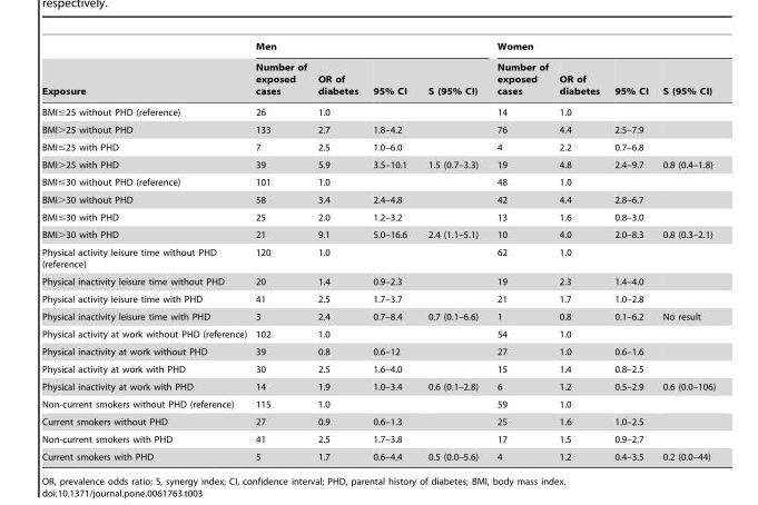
<table><thead><tr><td rowspan="2">Exposure</td><td colspan="4">Men</td><td colspan="4">Women</td></tr><tr><td>Number of exposed cases</td><td>OR of diabetes</td><td>95% CI</td><td>S (95% CI)</td><td>Number of exposed cases</td><td>OR of diabetes</td><td>95% CI</td><td>S (95% CI)</td></tr></thead><tbody><tr><td>BMI≤25 without PHD (reference)</td><td>26</td><td>1.0</td><td></td><td></td><td>14</td><td>1.0</td><td></td><td></td></tr><tr><td>BMI&gt;25 without PHD</td><td>133</td><td>2.7</td><td>1.8–4.2</td><td></td><td>76</td><td>4.4</td><td>2.5–7.9</td><td></td></tr><tr><td>BMI≤25 with PHD</td><td>7</td><td>2.5</td><td>1.0–6.0</td><td></td><td>4</td><td>2.2</td><td>0.7–6.8</td><td></td></tr><tr><td>BMI&gt;25 with PHD</td><td>39</td><td>5.9</td><td>3.5–10.1</td><td>1.5 (0.7–3.3)</td><td>19</td><td>4.8</td><td>2.4–9.7</td><td>0.8 (0.4–1.8)</td></tr><tr><td>BMI≤30 without PHD (reference)</td><td>101</td><td>1.0</td><td></td><td></td><td>48</td><td>1.0</td><td></td><td></td></tr><tr><td>BMI&gt;30 without PHD</td><td>58</td><td>3.4</td><td>2.4–4.8</td><td></td><td>42</td><td>4.4</td><td>2.8–6.7</td><td></td></tr><tr><td>BMI≤30 with PHD</td><td>25</td><td>2.0</td><td>1.2–3.2</td><td></td><td>13</td><td>1.6</td><td>0.8–3.0</td><td></td></tr><tr><td>BMI&gt;30 with PHD</td><td>21</td><td>9.1</td><td>5.0–16.6</td><td>2.4 (1.1–5.1)</td><td>10</td><td>4.0</td><td>2.0–8.3</td><td>0.8 (0.3–2.1)</td></tr><tr><td>Physical activity leisure time without PHD (reference)</td><td>120</td><td>1.0</td><td></td><td></td><td>62</td><td>1.0</td><td></td><td></td></tr><tr><td>Physical inactivity leisure time without PHD</td><td>20</td><td>1.4</td><td>0.9–2.3</td><td></td><td>19</td><td>2.3</td><td>1.4–4.0</td><td></td></tr><tr><td>Physical activity leisure time with PHD</td><td>41</td><td>2.5</td><td>1.7–3.7</td><td></td><td>21</td><td>1.7</td><td>1.0–2.8</td><td></td></tr><tr><td>Physical inactivity leisure time with PHD</td><td>3</td><td>2.4</td><td>0.7–8.4</td><td>0.7 (0.1–6.6)</td><td>1</td><td>0.8</td><td>0.1–6.2</td><td>No result</td></tr><tr><td>Physical activity at work without PHD (reference)</td><td>102</td><td>1.0</td><td></td><td></td><td>54</td><td>1.0</td><td></td><td></td></tr><tr><td>Physical inactivity at work without PHD</td><td>39</td><td>0.8</td><td>0.6–12</td><td></td><td>27</td><td>1.0</td><td>0.6–1.6</td><td></td></tr><tr><td>Physical activity at work with PHD</td><td>30</td><td>2.5</td><td>1.6–4.0</td><td></td><td>15</td><td>1.4</td><td>0.8–2.5</td><td></td></tr><tr><td>Physical inactivity at work with PHD</td><td>14</td><td>1.9</td><td>1.0–3.4</td><td>0.6 (0.1–2.8)</td><td>6</td><td>1.2</td><td>0.5–2.9</td><td>0.6 (0.0–106)</td></tr><tr><td>Non-current smokers without PHD (reference)</td><td>115</td><td>1.0</td><td></td><td></td><td>59</td><td>1.0</td><td></td><td></td></tr><tr><td>Current smokers without PHD</td><td>27</td><td>0.9</td><td>0.6–1.3</td><td></td><td>25</td><td>1.6</td><td>1.0–2.5</td><td></td></tr><tr><td>Non-current smokers with PHD</td><td>41</td><td>2.5</td><td>1.7–3.8</td><td></td><td>17</td><td>1.5</td><td>0.9–2.7</td><td></td></tr><tr><td>Current smokers with PHD</td><td>5</td><td>1.7</td><td>0.6–4.4</td><td>0.5 (0.0–5.6)</td><td>4</td><td>1.2</td><td>0.4–3.5</td><td>0.2 (0.0–44)</td></tr></tbody></table>